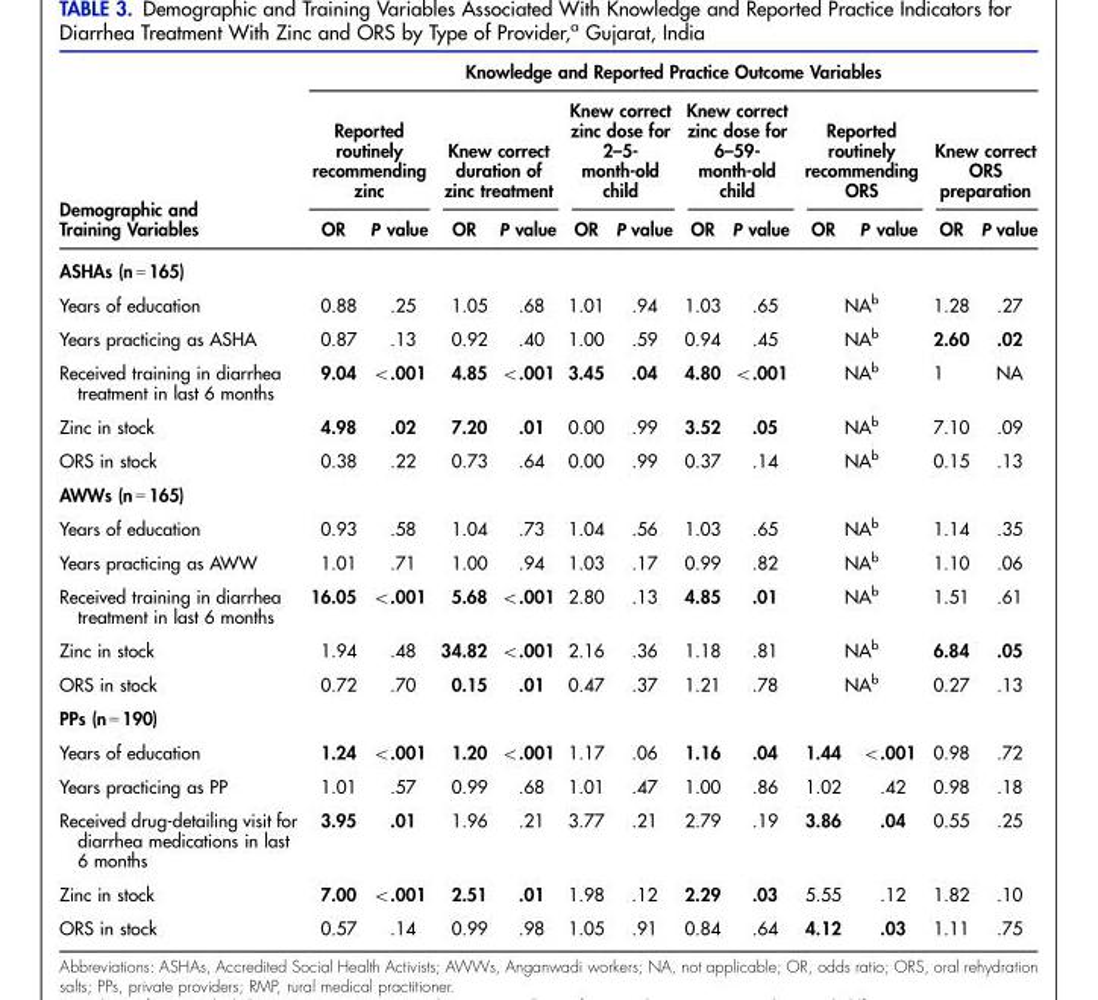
<table><thead><tr><td rowspan="3">Demographic and Training Variables</td><td colspan="12">Knowledge and Reported Practice Outcome Variables</td></tr><tr><td colspan="2">Reported routinely recommending zinc</td><td colspan="2">Knew correct duration of zinc treatment</td><td colspan="2">Knew correct zinc dose for 2–5- month-old child</td><td colspan="2">Knew correct zinc dose for 6–59- month-old child</td><td colspan="2">Reported routinely recommending ORS</td><td colspan="2">Knew correct ORS preparation</td></tr><tr><td>OR</td><td>P value</td><td>OR</td><td>P value</td><td>OR</td><td>P value</td><td>OR</td><td>P value</td><td>OR</td><td>P value</td><td>OR</td><td>P value</td></tr></thead><tbody><tr><td colspan="13">ASHAs (n = 165)</td></tr><tr><td>Years of education</td><td>0.88</td><td>.25</td><td>1.05</td><td>.68</td><td>1.01</td><td>.94</td><td>1.03</td><td>.65</td><td colspan="2">NA<sup>b</sup></td><td>1.28</td><td>.27</td></tr><tr><td>Years practicing as ASHA</td><td>0.87</td><td>.13</td><td>0.92</td><td>.40</td><td>1.00</td><td>.59</td><td>0.94</td><td>.45</td><td colspan="2">NA<sup>b</sup></td><td>2.60</td><td>.02</td></tr><tr><td>Received training in diarrhea treatment in last 6 months</td><td>9.04</td><td>&lt;.001</td><td>4.85</td><td>&lt;.001</td><td>3.45</td><td>.04</td><td>4.80</td><td>&lt;.001</td><td colspan="2">NA<sup>b</sup></td><td>1</td><td>NA</td></tr><tr><td>Zinc in stock</td><td>4.98</td><td>.02</td><td>7.20</td><td>.01</td><td>0.00</td><td>.99</td><td>3.52</td><td>.05</td><td colspan="2">NA<sup>b</sup></td><td>7.10</td><td>.09</td></tr><tr><td>ORS in stock</td><td>0.38</td><td>.22</td><td>0.73</td><td>.64</td><td>0.00</td><td>.99</td><td>0.37</td><td>.14</td><td colspan="2">NA<sup>b</sup></td><td>0.15</td><td>.13</td></tr><tr><td colspan="13">AWWs (n = 165)</td></tr><tr><td>Years of education</td><td>0.93</td><td>.58</td><td>1.04</td><td>.73</td><td>1.04</td><td>.56</td><td>1.03</td><td>.65</td><td colspan="2">NA<sup>b</sup></td><td>1.14</td><td>.35</td></tr><tr><td>Years practicing as AWW</td><td>1.01</td><td>.71</td><td>1.00</td><td>.94</td><td>1.03</td><td>.17</td><td>0.99</td><td>.82</td><td colspan="2">NA<sup>b</sup></td><td>1.10</td><td>.06</td></tr><tr><td>Received training in diarrhea treatment in last 6 months</td><td>16.05</td><td>&lt;.001</td><td>5.68</td><td>&lt;.001</td><td>2.80</td><td>.13</td><td>4.85</td><td>.01</td><td colspan="2">NA<sup>b</sup></td><td>1.51</td><td>.61</td></tr><tr><td>Zinc in stock</td><td>1.94</td><td>.48</td><td>34.82</td><td>&lt;.001</td><td>2.16</td><td>.36</td><td>1.18</td><td>.81</td><td colspan="2">NA<sup>b</sup></td><td>6.84</td><td>.05</td></tr><tr><td>ORS in stock</td><td>0.72</td><td>.70</td><td>0.15</td><td>.01</td><td>0.47</td><td>.37</td><td>1.21</td><td>.78</td><td colspan="2">NA<sup>b</sup></td><td>0.27</td><td>.13</td></tr><tr><td colspan="13">PPs (n = 190)</td></tr><tr><td>Years of education</td><td>1.24</td><td>&lt;.001</td><td>1.20</td><td>&lt;.001</td><td>1.17</td><td>.06</td><td>1.16</td><td>.04</td><td>1.44</td><td>&lt;.001</td><td>0.98</td><td>.72</td></tr><tr><td>Years practicing as PP</td><td>1.01</td><td>.57</td><td>0.99</td><td>.68</td><td>1.01</td><td>.47</td><td>1.00</td><td>.86</td><td>1.02</td><td>.42</td><td>0.98</td><td>.18</td></tr><tr><td>Received drug-detailing visit for diarrhea medications in last 6 months</td><td>3.95</td><td>.01</td><td>1.96</td><td>.21</td><td>3.77</td><td>.21</td><td>2.79</td><td>.19</td><td>3.86</td><td>.04</td><td>0.55</td><td>.25</td></tr><tr><td>Zinc in stock</td><td>7.00</td><td>&lt;.001</td><td>2.51</td><td>.01</td><td>1.98</td><td>.12</td><td>2.29</td><td>.03</td><td>5.55</td><td>.12</td><td>1.82</td><td>.10</td></tr><tr><td>ORS in stock</td><td>0.57</td><td>.14</td><td>0.99</td><td>.98</td><td>1.05</td><td>.91</td><td>0.84</td><td>.64</td><td>4.12</td><td>.03</td><td>1.11</td><td>.75</td></tr></tbody></table>